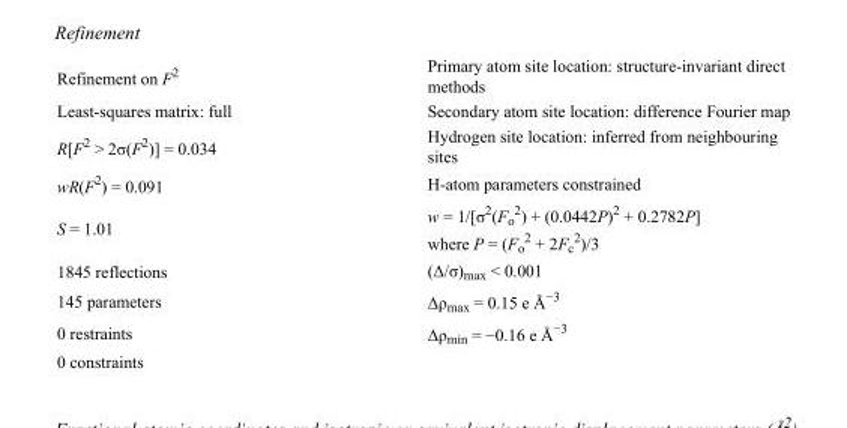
<table><tbody><tr><td>Refinement on F<sup>2</sup></td><td>Primary atom site location: structure-invariant direct methods</td></tr><tr><td>Least-squares matrix: full</td><td>Secondary atom site location: difference Fourier map</td></tr><tr><td>R[F<sup>2</sup> &gt; 2σ(F<sup>2</sup>)] = 0.034</td><td>Hydrogen site location: inferred from neighbouring sites</td></tr><tr><td>wR(F<sup>2</sup>) = 0.091</td><td>H-atom parameters constrained</td></tr><tr><td>S = 1.01</td><td>w = 1/[σ<sup>2</sup>(F<sub>o</sub> <sup>2</sup>) + (0.0442P)<sup>2</sup> + 0.2782P] where P = (F<sub>o</sub> <sup>2</sup> + 2F<sub>c</sub> <sup>2</sup>)/3</td></tr><tr><td>1845 reflections</td><td>(Δ/σ)<sub>max</sub> &lt; 0.001</td></tr><tr><td>145 parameters</td><td>Δρ<sub>max</sub> = 0.15 e Å<sup>−3</sup></td></tr><tr><td>0 restraints</td><td>Δρ<sub>min</sub> = −0.16 e Å<sup>−3</sup></td></tr><tr><td>0 constraints</td><td></td></tr></tbody></table>